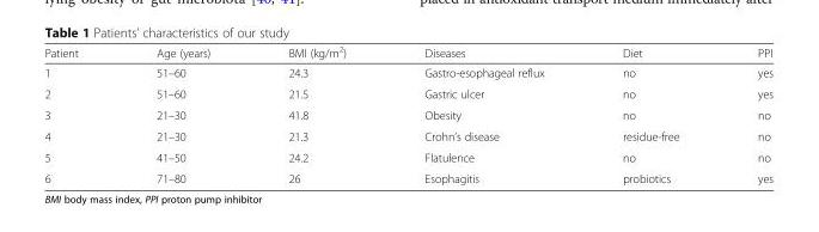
<table><thead><tr><td>Patient</td><td>Age (years)</td><td>BMI (kg/m2)</td><td>Diseases</td><td>Diet</td><td>PPI</td></tr></thead><tbody><tr><td>1</td><td>51–60</td><td>24.3</td><td>Gastro-esophageal reflux</td><td>no</td><td>yes</td></tr><tr><td>2</td><td>51–60</td><td>21.5</td><td>Gastric ulcer</td><td>no</td><td>yes</td></tr><tr><td>3</td><td>21–30</td><td>41.8</td><td>Obesity</td><td>no</td><td>no</td></tr><tr><td>4</td><td>21–30</td><td>21.3</td><td>Crohn’s disease</td><td>residue-free</td><td>no</td></tr><tr><td>5</td><td>41–50</td><td>24.2</td><td>Flatulence</td><td>no</td><td>no</td></tr><tr><td>6</td><td>71–80</td><td>26</td><td>Esophagitis</td><td>probiotics</td><td>yes</td></tr></tbody></table>